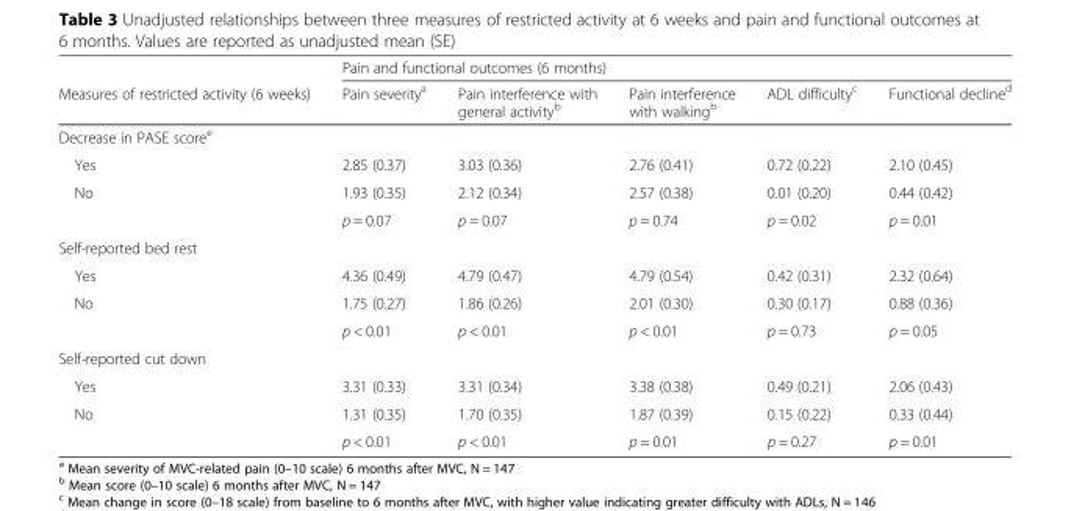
<table><thead><tr><td rowspan="2">Measures of restricted activity (6 weeks)</td><td colspan="5">Pain and functional outcomes (6 months)</td></tr><tr><td>Pain severity<sup>a</sup></td><td>Pain interference with general activity<sup>b</sup></td><td>Pain interference with walking<sup>b</sup></td><td>ADL difficulty<sup>c</sup></td><td>Functional decline<sup>d</sup></td></tr></thead><tbody><tr><td colspan="6">Decrease in PASE score<sup>e</sup></td></tr><tr><td>Yes</td><td>2.85 (0.37)</td><td>3.03 (0.36)</td><td>2.76 (0.41)</td><td>0.72 (0.22)</td><td>2.10 (0.45)</td></tr><tr><td rowspan="2">No</td><td>1.93 (0.35)</td><td>2.12 (0.34)</td><td>2.57 (0.38)</td><td>0.01 (0.20)</td><td>0.44 (0.42)</td></tr><tr><td>p = 0.07</td><td>p = 0.07</td><td>p = 0.74</td><td>p = 0.02</td><td>p = 0.01</td></tr><tr><td colspan="6">Self-reported bed rest</td></tr><tr><td>Yes</td><td>4.36 (0.49)</td><td>4.79 (0.47)</td><td>4.79 (0.54)</td><td>0.42 (0.31)</td><td>2.32 (0.64)</td></tr><tr><td rowspan="2">No</td><td>1.75 (0.27)</td><td>1.86 (0.26)</td><td>2.01 (0.30)</td><td>0.30 (0.17)</td><td>0.88 (0.36)</td></tr><tr><td>p &lt; 0.01</td><td>p &lt; 0.01</td><td>p &lt; 0.01</td><td>p = 0.73</td><td>p = 0.05</td></tr><tr><td colspan="6">Self-reported cut down</td></tr><tr><td>Yes</td><td>3.31 (0.33)</td><td>3.31 (0.34)</td><td>3.38 (0.38)</td><td>0.49 (0.21)</td><td>2.06 (0.43)</td></tr><tr><td rowspan="2">No</td><td>1.31 (0.35)</td><td>1.70 (0.35)</td><td>1.87 (0.39)</td><td>0.15 (0.22)</td><td>0.33 (0.44)</td></tr><tr><td>p &lt; 0.01</td><td>p &lt; 0.01</td><td>p = 0.01</td><td>p = 0.27</td><td>p = 0.01</td></tr></tbody></table>